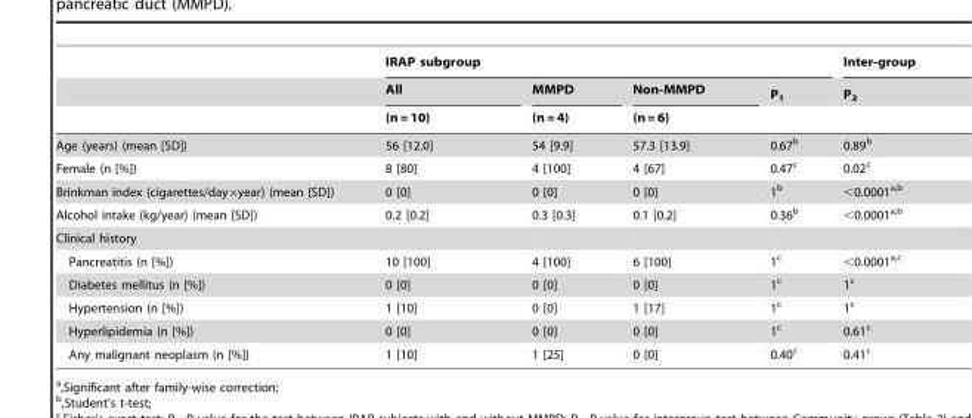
<table><thead><tr><td rowspan="3"></td><td colspan="4">IRAP subgroup</td><td rowspan="3">Inter-group P<sub>2</sub></td></tr><tr><td rowspan="2">All (n = 10)</td><td rowspan="2">MMPD (n = 4)</td><td rowspan="2">Non-MMPD (n = 6)</td><td rowspan="2">P<sub>1</sub></td></tr><tr></tr></thead><tbody><tr><td>Age (years) (mean [SD])</td><td>56 [12.0]</td><td>54 [9.9]</td><td>57.3 [13.9]</td><td>0.67<sup>b</sup></td><td>0.89<sup>b</sup></td></tr><tr><td>Female (n [%])</td><td>8 [80]</td><td>4 [100]</td><td>4 [67]</td><td>0.47<sup>c</sup></td><td>0.02<sup>c</sup></td></tr><tr><td>Brinkman index (cigarettes/day×year) (mean [SD])</td><td>0 [0]</td><td>0 [0]</td><td>0 [0]</td><td>1<sup>b</sup></td><td>&lt;0.0001a,b</td></tr><tr><td>Alcohol intake (kg/year) (mean [SD])</td><td>0.2 [0.2]</td><td>0.3 [0.3]</td><td>0.1 [0.2]</td><td>0.36<sup>b</sup></td><td>&lt;0.0001a,b</td></tr><tr><td colspan="6">Clinical history</td></tr><tr><td>Pancreatitis (n [%])</td><td>10 [100]</td><td>4 [100]</td><td>6 [100]</td><td>1<sup>c</sup></td><td>&lt;0.0001a,c</td></tr><tr><td>Diabetes mellitus (n [%])</td><td>0 [0]</td><td>0 [0]</td><td>0 [0]</td><td>1<sup>c</sup></td><td>1<sup>c</sup></td></tr><tr><td>Hypertension (n [%])</td><td>1 [10]</td><td>0 [0]</td><td>1 [17]</td><td>1<sup>c</sup></td><td>1<sup>c</sup></td></tr><tr><td>Hyperlipidemia (n [%])</td><td>0 [0]</td><td>0 [0]</td><td>0 [0]</td><td>1<sup>c</sup></td><td>0.61<sup>c</sup></td></tr><tr><td>Any malignant neoplasm (n [%])</td><td>1 [10]</td><td>1 [25]</td><td>0 [0]</td><td>0.40<sup>c</sup></td><td>0.41<sup>c</sup></td></tr></tbody></table>